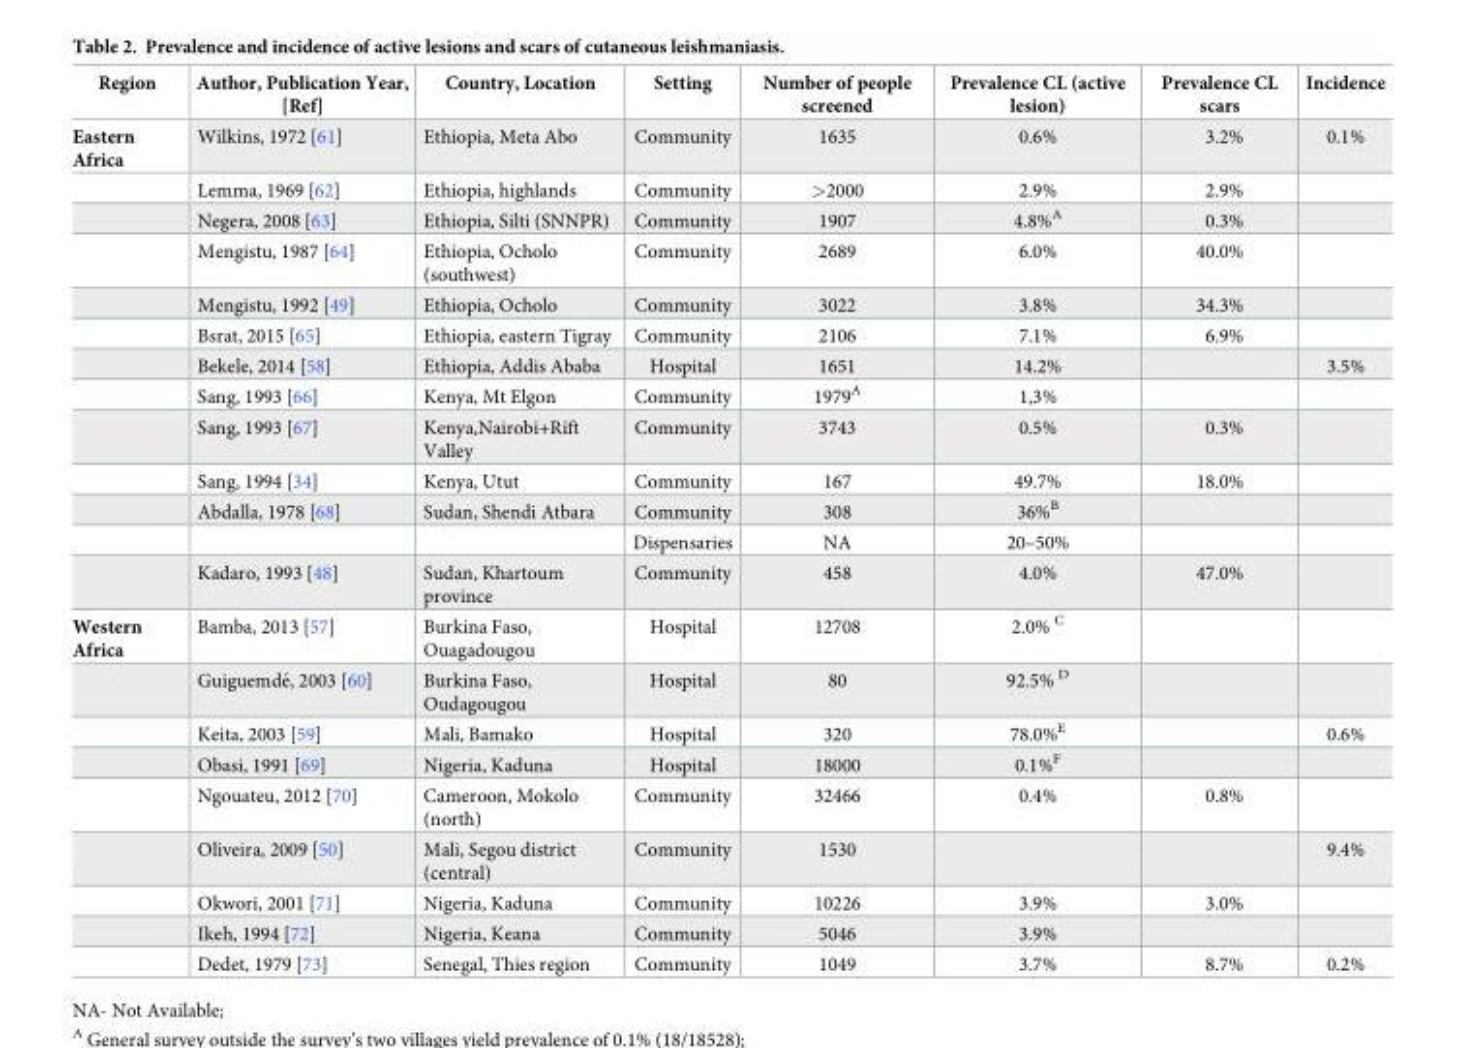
<table><thead><tr><td>Region</td><td>Author, Publication Year, [Ref]</td><td>Country, Location</td><td>Setting</td><td>Number of people screened</td><td>Prevalence CL (active lesion)</td><td>Prevalence CL scars</td><td>Incidence</td></tr></thead><tbody><tr><td rowspan="13">Eastern Africa</td><td>Wilkins, 1972 [61]</td><td>Ethiopia, Meta Abo</td><td>Community</td><td>1635</td><td>0.6%</td><td>3.2%</td><td>0.1%</td></tr><tr><td>Lemma, 1969 [62]</td><td>Ethiopia, highlands</td><td>Community</td><td>&gt;2000</td><td>2.9%</td><td>2.9%</td><td></td></tr><tr><td>Negera, 2008 [63]</td><td>Ethiopia, Silti (SNNPR)</td><td>Community</td><td>1907</td><td>4.8%<sup>A</sup></td><td>0.3%</td><td></td></tr><tr><td>Mengistu, 1987 [64]</td><td>Ethiopia, Ocholo (southwest)</td><td>Community</td><td>2689</td><td>6.0%</td><td>40.0%</td><td></td></tr><tr><td>Mengistu, 1992 [49]</td><td>Ethiopia, Ocholo</td><td>Community</td><td>3022</td><td>3.8%</td><td>34.3%</td><td></td></tr><tr><td>Bsrat, 2015 [65]</td><td>Ethiopia, eastern Tigray</td><td>Community</td><td>2106</td><td>7.1%</td><td>6.9%</td><td></td></tr><tr><td>Bekele, 2014 [58]</td><td>Ethiopia, Addis Ababa</td><td>Hospital</td><td>1651</td><td>14.2%</td><td></td><td>3.5%</td></tr><tr><td>Sang, 1993 [66]</td><td>Kenya, Mt Elgon</td><td>Community</td><td>1979<sup>A</sup></td><td>1,3%</td><td></td><td></td></tr><tr><td>Sang, 1993 [67]</td><td>Kenya,Nairobi+Rift Valley</td><td>Community</td><td>3743</td><td>0.5%</td><td>0.3%</td><td></td></tr><tr><td>Sang, 1994 [34]</td><td>Kenya, Utut</td><td>Community</td><td>167</td><td>49.7%</td><td>18.0%</td><td></td></tr><tr><td>Abdalla, 1978 [68]</td><td>Sudan, Shendi Atbara</td><td>Community</td><td>308</td><td>36%<sup>B</sup></td><td></td><td></td></tr><tr><td></td><td></td><td>Dispensaries</td><td>NA</td><td>20–50%</td><td></td><td></td></tr><tr><td>Kadaro, 1993 [48]</td><td>Sudan, Khartoum province</td><td>Community</td><td>458</td><td>4.0%</td><td>47.0%</td><td></td></tr><tr><td rowspan="9">Western Africa</td><td>Bamba, 2013 [57]</td><td>Burkina Faso, Ouagadougou</td><td>Hospital</td><td>12708</td><td>2.0% <sup>C</sup></td><td></td><td></td></tr><tr><td>Guiguemde´, 2003 [60]</td><td>Burkina Faso, Oudagougou</td><td>Hospital</td><td>80</td><td>92.5% <sup>D</sup></td><td></td><td></td></tr><tr><td>Keita, 2003 [59]</td><td>Mali, Bamako</td><td>Hospital</td><td>320</td><td>78.0%<sup>E</sup></td><td></td><td>0.6%</td></tr><tr><td>Obasi, 1991 [69]</td><td>Nigeria, Kaduna</td><td>Hospital</td><td>18000</td><td>0.1%<sup>F</sup></td><td></td><td></td></tr><tr><td>Ngouateu, 2012 [70]</td><td>Cameroon, Mokolo (north)</td><td>Community</td><td>32466</td><td>0.4%</td><td>0.8%</td><td></td></tr><tr><td>Oliveira, 2009 [50]</td><td>Mali, Segou district (central)</td><td>Community</td><td>1530</td><td></td><td></td><td>9.4%</td></tr><tr><td>Okwori, 2001 [71]</td><td>Nigeria, Kaduna</td><td>Community</td><td>10226</td><td>3.9%</td><td>3.0%</td><td></td></tr><tr><td>Ikeh, 1994 [72]</td><td>Nigeria, Keana</td><td>Community</td><td>5046</td><td>3.9%</td><td></td><td></td></tr><tr><td>Dedet, 1979 [73]</td><td>Senegal, Thies region</td><td>Community</td><td>1049</td><td>3.7%</td><td>8.7%</td><td>0.2%</td></tr></tbody></table>